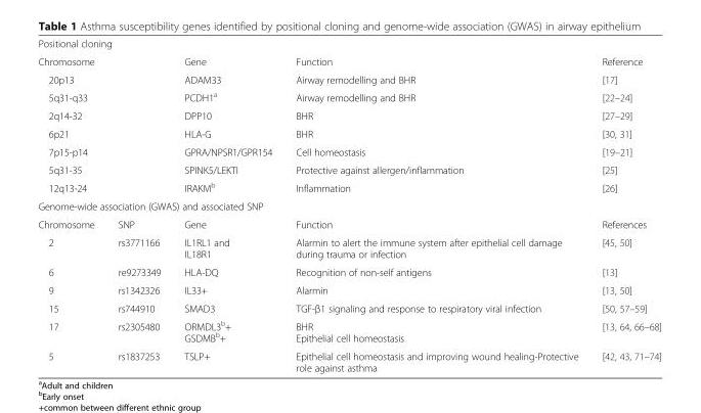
<table><tbody><tr><td colspan="5">Positional cloning</td></tr><tr><td colspan="2">Chromosome</td><td>Gene</td><td>Function</td><td>Reference</td></tr><tr><td colspan="2">20p13</td><td>ADAM33</td><td>Airway remodelling and BHR</td><td>[17]</td></tr><tr><td colspan="2">5q31-q33</td><td>PCDH1<sup>a</sup></td><td>Airway remodelling and BHR</td><td>[22–24]</td></tr><tr><td colspan="2">2q14-32</td><td>DPP10</td><td>BHR</td><td>[27–29]</td></tr><tr><td colspan="2">6p21</td><td>HLA-G</td><td>BHR</td><td>[30, 31]</td></tr><tr><td colspan="2">7p15-p14</td><td>GPRA/NPSR1/GPR154</td><td>Cell homeostasis</td><td>[19–21]</td></tr><tr><td colspan="2">5q31-35</td><td>SPINK5/LEKTI</td><td>Protective against allergen/inflammation</td><td>[25]</td></tr><tr><td colspan="2">12q13-24</td><td>IRAKM<sup>b</sup></td><td>Inflammation</td><td>[26]</td></tr><tr><td colspan="5">Genome-wide association (GWAS) and associated SNP</td></tr><tr><td>Chromosome</td><td>SNP</td><td>Gene</td><td>Function</td><td>References</td></tr><tr><td>2</td><td>rs3771166</td><td>IL1RL1 and IL18R1</td><td>Alarmin to alert the immune system after epithelial cell damage during trauma or infection</td><td>[45, 50]</td></tr><tr><td>6</td><td>re9273349</td><td>HLA-DQ</td><td>Recognition of non-self antigens</td><td>[13]</td></tr><tr><td>9</td><td>rs1342326</td><td>IL33+</td><td>Alarmin</td><td>[13, 50]</td></tr><tr><td>15</td><td>rs744910</td><td>SMAD3</td><td>TGF-β1 signaling and response to respiratory viral infection</td><td>[50, 57–59]</td></tr><tr><td>17</td><td>rs2305480</td><td>ORMDL3<sup>b</sup>+ GSDMB<sup>b</sup>+</td><td>BHR Epithelial cell homeostasis</td><td>[13, 64, 66–68]</td></tr><tr><td>5</td><td>rs1837253</td><td>TSLP+</td><td>Epithelial cell homeostasis and improving wound healing-Protective role against asthma</td><td>[42, 43, 71–74]</td></tr></tbody></table>